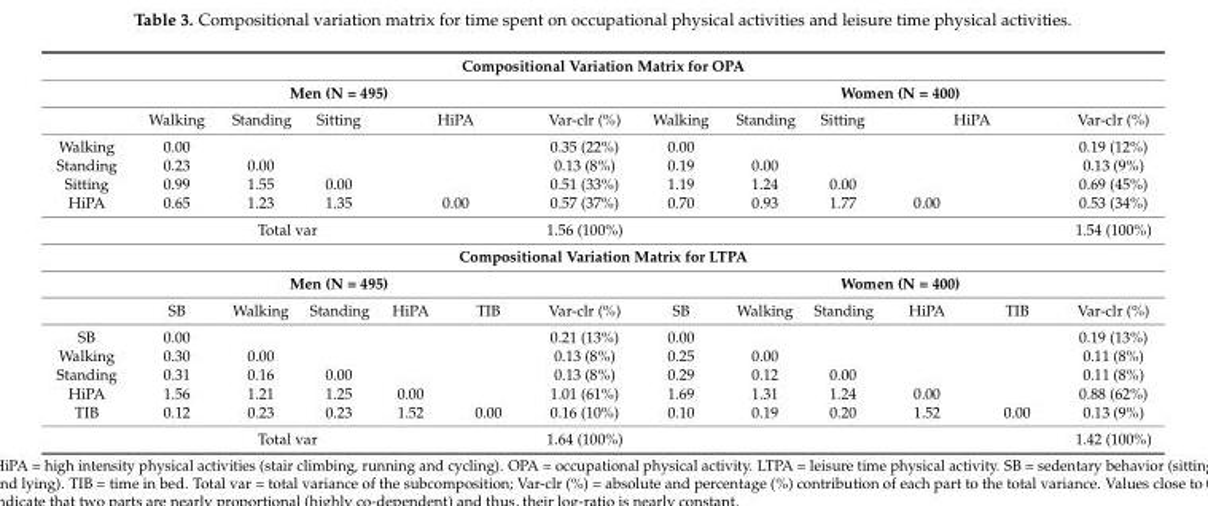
<table><tbody><tr><td colspan="13">Compositional Variation Matrix for OPA</td></tr><tr><td colspan="7">Men (N = 495)</td><td colspan="6">Women (N = 400)</td></tr><tr><td></td><td>Walking</td><td>Standing</td><td>Sitting</td><td colspan="2">HiPA</td><td>Var-clr (%)</td><td>Walking</td><td>Standing</td><td>Sitting</td><td colspan="2">HiPA</td><td>Var-clr (%)</td></tr><tr><td>Walking</td><td>0.00</td><td></td><td></td><td></td><td></td><td>0.35 (22%)</td><td>0.00</td><td></td><td></td><td></td><td></td><td>0.19 (12%)</td></tr><tr><td>Standing</td><td>0.23</td><td>0.00</td><td></td><td></td><td></td><td>0.13 (8%)</td><td>0.19</td><td>0.00</td><td></td><td></td><td></td><td>0.13 (9%)</td></tr><tr><td>Sitting</td><td>0.99</td><td>1.55</td><td>0.00</td><td></td><td></td><td>0.51 (33%)</td><td>1.19</td><td>1.24</td><td>0.00</td><td></td><td></td><td>0.69 (45%)</td></tr><tr><td>HiPA</td><td>0.65</td><td>1.23</td><td>1.35</td><td colspan="2">0.00</td><td>0.57 (37%)</td><td>0.70</td><td>0.93</td><td>1.77</td><td>0.00</td><td></td><td>0.53 (34%)</td></tr><tr><td colspan="6">Total var</td><td>1.56 (100%)</td><td></td><td></td><td></td><td></td><td></td><td>1.54 (100%)</td></tr><tr><td colspan="13">Compositional Variation Matrix for LTPA</td></tr><tr><td colspan="7">Men (N = 495)</td><td colspan="6">Women (N = 400)</td></tr><tr><td></td><td>SB</td><td>Walking</td><td>Standing</td><td>HiPA</td><td>TIB</td><td>Var-clr (%)</td><td>SB</td><td>Walking</td><td>Standing</td><td>HiPA</td><td>TIB</td><td>Var-clr (%)</td></tr><tr><td>SB</td><td>0.00</td><td></td><td></td><td></td><td></td><td>0.21 (13%)</td><td>0.00</td><td></td><td></td><td></td><td></td><td>0.19 (13%)</td></tr><tr><td>Walking</td><td>0.30</td><td>0.00</td><td></td><td></td><td></td><td>0.13 (8%)</td><td>0.25</td><td>0.00</td><td></td><td></td><td></td><td>0.11 (8%)</td></tr><tr><td>Standing</td><td>0.31</td><td>0.16</td><td>0.00</td><td></td><td></td><td>0.13 (8%)</td><td>0.29</td><td>0.12</td><td>0.00</td><td></td><td></td><td>0.11 (8%)</td></tr><tr><td>HiPA</td><td>1.56</td><td>1.21</td><td>1.25</td><td>0.00</td><td></td><td>1.01 (61%)</td><td>1.69</td><td>1.31</td><td>1.24</td><td>0.00</td><td></td><td>0.88 (62%)</td></tr><tr><td>TIB</td><td>0.12</td><td>0.23</td><td>0.23</td><td>1.52</td><td>0.00</td><td>0.16 (10%)</td><td>0.10</td><td>0.19</td><td>0.20</td><td>1.52</td><td>0.00</td><td>0.13 (9%)</td></tr><tr><td colspan="6">Total var</td><td>1.64 (100%)</td><td></td><td></td><td></td><td></td><td></td><td>1.42 (100%)</td></tr></tbody></table>